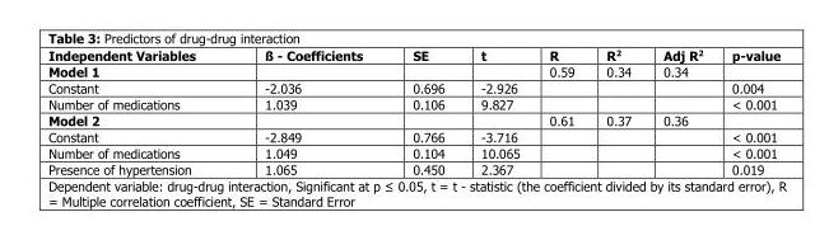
<table><thead><tr><td>Independent Variables</td><td>ß - Coefficients</td><td>SE</td><td>t</td><td>R</td><td>R<sup>2</sup></td><td>Adj R<sup>2</sup></td><td>p-value</td></tr></thead><tbody><tr><td>Model 1</td><td></td><td></td><td></td><td>0.59</td><td>0.34</td><td>0.34</td><td></td></tr><tr><td>Constant</td><td>-2.036</td><td>0.696</td><td>-2.926</td><td></td><td></td><td></td><td>0.004</td></tr><tr><td>Number of medications</td><td>1.039</td><td>0.106</td><td>9.827</td><td></td><td></td><td></td><td>&lt; 0.001</td></tr><tr><td>Model 2</td><td></td><td></td><td></td><td>0.61</td><td>0.37</td><td>0.36</td><td></td></tr><tr><td>Constant</td><td>-2.849</td><td>0.766</td><td>-3.716</td><td></td><td></td><td></td><td>&lt; 0.001</td></tr><tr><td>Number of medications</td><td>1.049</td><td>0.104</td><td>10.065</td><td></td><td></td><td></td><td>&lt; 0.001</td></tr><tr><td>Presence of hypertension</td><td>1.065</td><td>0.450</td><td>2.367</td><td></td><td></td><td></td><td>0.019</td></tr></tbody></table>